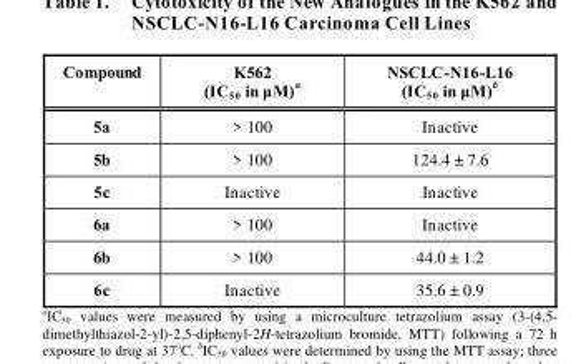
<table><thead><tr><td>Compound</td><td>K562 (IC<sub>50</sub> in μM) a</td><td>NSCLC-N16-L16 (IC<sub>50</sub> in μM) b</td></tr></thead><tbody><tr><td>5a</td><td>&gt; 100</td><td>Inactive</td></tr><tr><td>5b</td><td>&gt; 100</td><td>124.4 ± 7.6</td></tr><tr><td>5c</td><td>Inactive</td><td>Inactive</td></tr><tr><td>6a</td><td>&gt; 100</td><td>Inactive</td></tr><tr><td>6b</td><td>&gt; 100</td><td>44.0 ± 1.2</td></tr><tr><td>6c</td><td>Inactive</td><td>35.6 ± 0.9</td></tr></tbody></table>